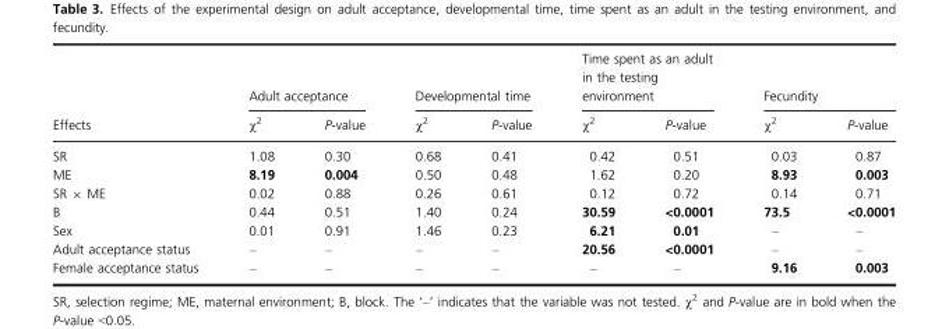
<table><thead><tr><td rowspan="2">Effects</td><td colspan="2">Adult acceptance</td><td colspan="2">Developmental time</td><td colspan="2">Time spent as an adult in the testing environment</td><td colspan="2">Fecundity</td></tr><tr><td>χ<sup>2</sup></td><td>P-value</td><td>χ<sup>2</sup></td><td>P-value</td><td>χ<sup>2</sup></td><td>P-value</td><td>χ<sup>2</sup></td><td>P-value</td></tr></thead><tbody><tr><td>SR</td><td>1.08</td><td>0.30</td><td>0.68</td><td>0.41</td><td>0.42</td><td>0.51</td><td>0.03</td><td>0.87</td></tr><tr><td>ME</td><td>8.19</td><td>0.004</td><td>0.50</td><td>0.48</td><td>1.62</td><td>0.20</td><td>8.93</td><td>0.003</td></tr><tr><td>SR × ME</td><td>0.02</td><td>0.88</td><td>0.26</td><td>0.61</td><td>0.12</td><td>0.72</td><td>0.14</td><td>0.71</td></tr><tr><td>B</td><td>0.44</td><td>0.51</td><td>1.40</td><td>0.24</td><td>30.59</td><td>&lt;0.0001</td><td>73.5</td><td>&lt;0.0001</td></tr><tr><td>Sex</td><td>0.01</td><td>0.91</td><td>1.46</td><td>0.23</td><td>6.21</td><td>0.01</td><td>–</td><td>–</td></tr><tr><td>Adult acceptance status</td><td>–</td><td>–</td><td>–</td><td>–</td><td>20.56</td><td>&lt;0.0001</td><td>–</td><td>–</td></tr><tr><td>Female acceptance status</td><td>–</td><td>–</td><td>–</td><td>–</td><td>–</td><td>–</td><td>9.16</td><td>0.003</td></tr></tbody></table>